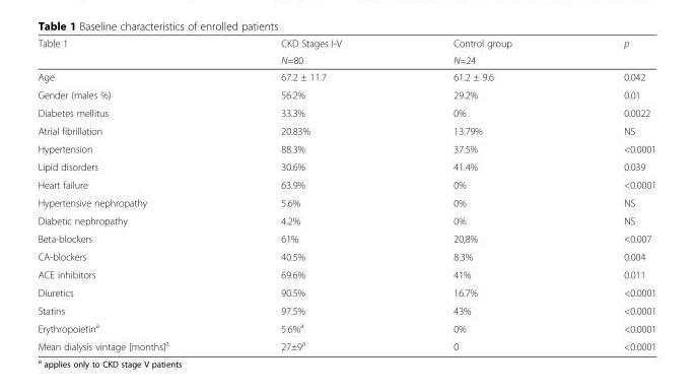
<table><thead><tr><td rowspan="2">Table 1</td><td rowspan="2">CKD Stages I-V N=80</td><td rowspan="2">Control group N=24</td><td rowspan="2">p</td></tr><tr></tr></thead><tbody><tr><td>Age</td><td>67.2 ± 11.7</td><td>61.2 ± 9.6</td><td>0.042</td></tr><tr><td>Gender (males %)</td><td>56.2%</td><td>29.2%</td><td>0.01</td></tr><tr><td>Diabetes mellitus</td><td>33.3%</td><td>0%</td><td>0.0022</td></tr><tr><td>Atrial fibrillation</td><td>20.83%</td><td>13.79%</td><td>NS</td></tr><tr><td>Hypertension</td><td>88.3%</td><td>37.5%</td><td>&lt;0.0001</td></tr><tr><td>Lipid disorders</td><td>30.6%</td><td>41.4%</td><td>0.039</td></tr><tr><td>Heart failure</td><td>63.9%</td><td>0%</td><td>&lt;0.0001</td></tr><tr><td>Hypertensive nephropathy</td><td>5.6%</td><td>0%</td><td>NS</td></tr><tr><td>Diabetic nephropathy</td><td>4.2%</td><td>0%</td><td>NS</td></tr><tr><td>Beta-blockers</td><td>61%</td><td>20,8%</td><td>&lt;0.007</td></tr><tr><td>CA-blockers</td><td>40.5%</td><td>8.3%</td><td>0.004</td></tr><tr><td>ACE inhibitors</td><td>69.6%</td><td>41%</td><td>0.011</td></tr><tr><td>Diuretics</td><td>90.5%</td><td>16.7%</td><td>&lt;0.0001</td></tr><tr><td>Statins</td><td>97.5%</td><td>43%</td><td>&lt;0.0001</td></tr><tr><td>Erythropoietin<sup>a</sup></td><td>5.6%<sup>a</sup></td><td>0%</td><td>&lt;0.0001</td></tr><tr><td>Mean dialysis vintage [months]<sup>a</sup></td><td>27±9<sup>a</sup></td><td>0</td><td>&lt;0.0001</td></tr></tbody></table>